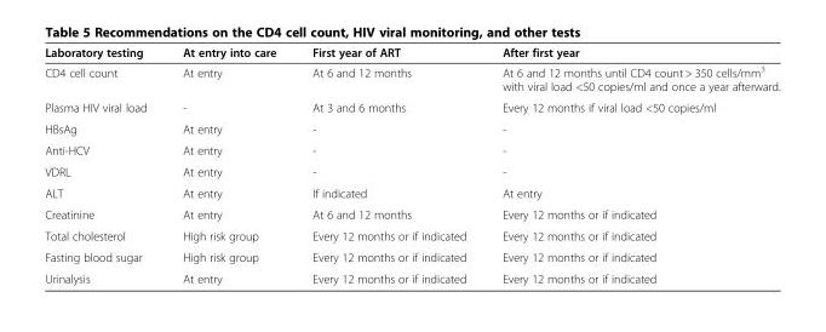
<table><thead><tr><td>Laboratory testing</td><td>At entry into care</td><td>First year of ART</td><td>After first year</td></tr></thead><tbody><tr><td>CD4 cell count</td><td>At entry</td><td>At 6 and 12 months</td><td>At 6 and 12 months until CD4 count &gt; 350 cells/mm<sup>3</sup> with viral load &lt;50 copies/ml and once a year afterward.</td></tr><tr><td>Plasma HIV viral load</td><td>-</td><td>At 3 and 6 months</td><td>Every 12 months if viral load &lt;50 copies/ml</td></tr><tr><td>HBsAg</td><td>At entry</td><td>-</td><td>-</td></tr><tr><td>Anti-HCV</td><td>At entry</td><td>-</td><td>-</td></tr><tr><td>VDRL</td><td>At entry</td><td>-</td><td>-</td></tr><tr><td>ALT</td><td>At entry</td><td>If indicated</td><td>At entry</td></tr><tr><td>Creatinine</td><td>At entry</td><td>At 6 and 12 months</td><td>Every 12 months or if indicated</td></tr><tr><td>Total cholesterol</td><td>High risk group</td><td>Every 12 months or if indicated</td><td>Every 12 months or if indicated</td></tr><tr><td>Fasting blood sugar</td><td>High risk group</td><td>Every 12 months or if indicated</td><td>Every 12 months or if indicated</td></tr><tr><td>Urinalysis</td><td>At entry</td><td>Every 12 months or if indicated</td><td>Every 12 months or if indicated</td></tr></tbody></table>